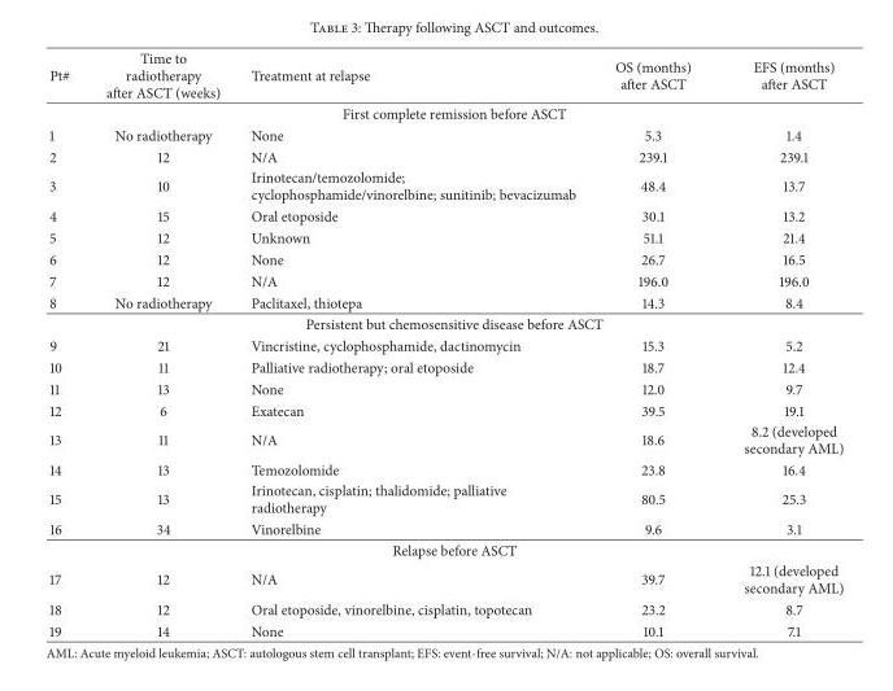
<table><thead><tr><td>Pt#</td><td>Time to radiotherapy after ASCT (weeks)</td><td>Treatment at relapse</td><td>OS (months) after ASCT</td><td>EFS (months) after ASCT</td></tr></thead><tbody><tr><td colspan="5">First complete remission before ASCT</td></tr><tr><td>1</td><td>No radiotherapy</td><td>None</td><td>5.3</td><td>1.4</td></tr><tr><td>2</td><td>12</td><td>N/A</td><td>239.1</td><td>239.1</td></tr><tr><td>3</td><td>10</td><td>Irinotecan/temozolomide; cyclophosphamide/vinorelbine; sunitinib; bevacizumab</td><td>48.4</td><td>13.7</td></tr><tr><td>4</td><td>15</td><td>Oral etoposide</td><td>30.1</td><td>13.2</td></tr><tr><td>5</td><td>12</td><td>Unknown</td><td>51.1</td><td>21.4</td></tr><tr><td>6</td><td>12</td><td>None</td><td>26.7</td><td>16.5</td></tr><tr><td>7</td><td>12</td><td>N/A</td><td>196.0</td><td>196.0</td></tr><tr><td>8</td><td>No radiotherapy</td><td>Paclitaxel, thiotepa</td><td>14.3</td><td>8.4</td></tr><tr><td colspan="5">Persistent but chemosensitive disease before ASCT</td></tr><tr><td>9</td><td>21</td><td>Vincristine, cyclophosphamide, dactinomycin</td><td>15.3</td><td>5.2</td></tr><tr><td>10</td><td>11</td><td>Palliative radiotherapy; oral etoposide</td><td>18.7</td><td>12.4</td></tr><tr><td>11</td><td>13</td><td>None</td><td>12.0</td><td>9.7</td></tr><tr><td>12</td><td>6</td><td>Exatecan</td><td>39.5</td><td>19.1</td></tr><tr><td>13</td><td>11</td><td>N/A</td><td>18.6</td><td>8.2 (developed secondary AML)</td></tr><tr><td>14</td><td>13</td><td>Temozolomide</td><td>23.8</td><td>16.4</td></tr><tr><td>15</td><td>13</td><td>Irinotecan, cisplatin; thalidomide; palliative radiotherapy</td><td>80.5</td><td>25.3</td></tr><tr><td>16</td><td>34</td><td>Vinorelbine</td><td>9.6</td><td>3.1</td></tr><tr><td colspan="5">Relapse before ASCT</td></tr><tr><td>17</td><td>12</td><td>N/A</td><td>39.7</td><td>12.1 (developed secondary AML)</td></tr><tr><td>18</td><td>12</td><td>Oral etoposide, vinorelbine, cisplatin, topotecan</td><td>23.2</td><td>8.7</td></tr><tr><td>19</td><td>14</td><td>None</td><td>10.1</td><td>7.1</td></tr></tbody></table>